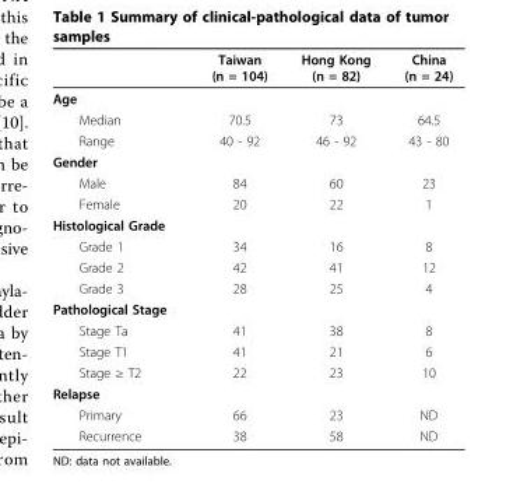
<table><thead><tr><td></td><td>Taiwan (n = 104)</td><td>Hong Kong (n = 82)</td><td>China (n = 24)</td></tr></thead><tbody><tr><td colspan="4">Age</td></tr><tr><td>Median</td><td>70.5</td><td>73</td><td>64.5</td></tr><tr><td>Range</td><td>40 - 92</td><td>46 - 92</td><td>43 - 80</td></tr><tr><td colspan="4">Gender</td></tr><tr><td>Male</td><td>84</td><td>60</td><td>23</td></tr><tr><td>Female</td><td>20</td><td>22</td><td>1</td></tr><tr><td colspan="4">Histological Grade</td></tr><tr><td>Grade 1</td><td>34</td><td>16</td><td>8</td></tr><tr><td>Grade 2</td><td>42</td><td>41</td><td>12</td></tr><tr><td>Grade 3</td><td>28</td><td>25</td><td>4</td></tr><tr><td colspan="4">Pathological Stage</td></tr><tr><td>Stage Ta</td><td>41</td><td>38</td><td>8</td></tr><tr><td>Stage T1</td><td>41</td><td>21</td><td>6</td></tr><tr><td>Stage ≥ T2</td><td>22</td><td>23</td><td>10</td></tr><tr><td colspan="4">Relapse</td></tr><tr><td>Primary</td><td>66</td><td>23</td><td>ND</td></tr><tr><td>Recurrence</td><td>38</td><td>58</td><td>ND</td></tr></tbody></table>